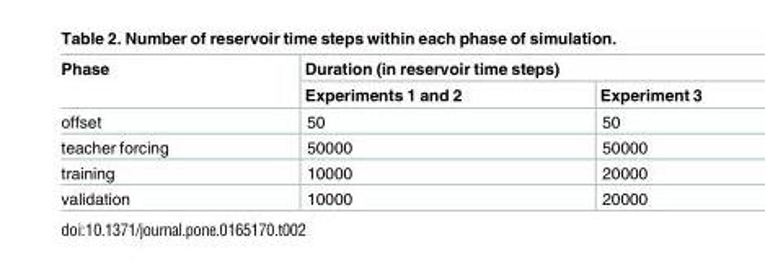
<table><thead><tr><td rowspan="2">Phase</td><td colspan="2">Duration (in reservoir time steps)</td></tr><tr><td>Experiments 1 and 2</td><td>Experiment 3</td></tr></thead><tbody><tr><td>offset</td><td>50</td><td>50</td></tr><tr><td>teacher forcing</td><td>50000</td><td>50000</td></tr><tr><td>training</td><td>10000</td><td>20000</td></tr><tr><td>validation</td><td>10000</td><td>20000</td></tr></tbody></table>